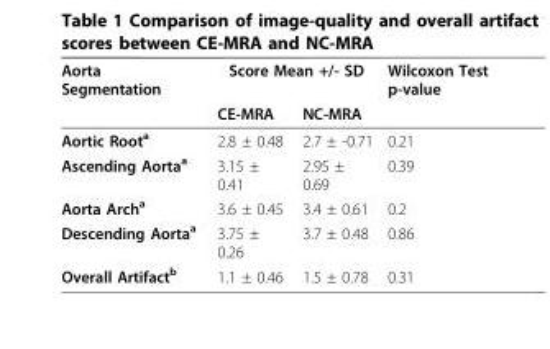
<table><thead><tr><td rowspan="2">Aorta Segmentation</td><td colspan="2">Score Mean +/- SD</td><td rowspan="2">Wilcoxon Test p-value</td></tr><tr><td>CE-MRA</td><td>NC-MRA</td></tr></thead><tbody><tr><td>Aortic Root<sup>a</sup></td><td>2.8 ± 0.48</td><td>2.7 ± -0.71</td><td>0.21</td></tr><tr><td>Ascending Aorta<sup>a</sup></td><td>3.15 ± 0.41</td><td>2.95 ± 0.69</td><td>0.39</td></tr><tr><td>Aorta Arch<sup>a</sup></td><td>3.6 ± 0.45</td><td>3.4 ± 0.61</td><td>0.2</td></tr><tr><td>Descending Aorta<sup>a</sup></td><td>3.75 ± 0.26</td><td>3.7 ± 0.48</td><td>0.86</td></tr><tr><td>Overall Artifact<sup>b</sup></td><td>1.1 ± 0.46</td><td>1.5 ± 0.78</td><td>0.31</td></tr></tbody></table>